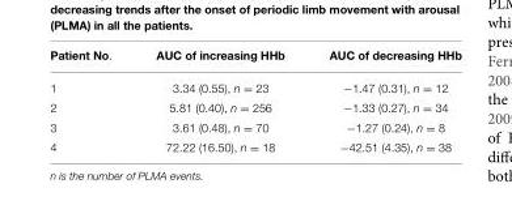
<table><thead><tr><td>Patient No.</td><td>AUC of increasing HHb</td><td>AUC of decreasing HHb</td></tr></thead><tbody><tr><td>1</td><td>3.34 (0.55), n = 23</td><td>−1.47 (0.31), n = 12</td></tr><tr><td>2</td><td>5.81 (0.40), n = 256</td><td>−1.33 (0.27), n = 34</td></tr><tr><td>3</td><td>3.61 (0.48), n = 70</td><td>−1.27 (0.24), n = 8</td></tr><tr><td>4</td><td>72.22 (16.50), n = 18</td><td>−42.51 (4.35), n = 38</td></tr></tbody></table>